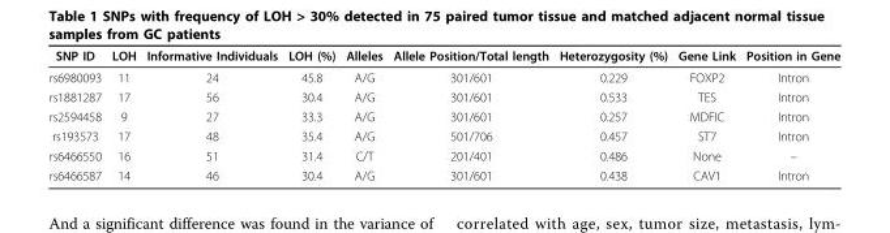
<table><thead><tr><td>SNP ID</td><td>LOH</td><td>Informative Individuals</td><td>LOH (%)</td><td>Alleles</td><td>Allele Position/Total length</td><td>Heterozygosity (%)</td><td>Gene Link</td><td>Position in Gene</td></tr></thead><tbody><tr><td>rs6980093</td><td>11</td><td>24</td><td>45.8</td><td>A/G</td><td>301/601</td><td>0.229</td><td>FOXP2</td><td>Intron</td></tr><tr><td>rs1881287</td><td>17</td><td>56</td><td>30.4</td><td>A/G</td><td>301/601</td><td>0.533</td><td>TES</td><td>Intron</td></tr><tr><td>rs2594458</td><td>9</td><td>27</td><td>33.3</td><td>A/G</td><td>301/601</td><td>0.257</td><td>MDFIC</td><td>Intron</td></tr><tr><td>rs193573</td><td>17</td><td>48</td><td>35.4</td><td>A/G</td><td>501/706</td><td>0.457</td><td>ST7</td><td>Intron</td></tr><tr><td>rs6466550</td><td>16</td><td>51</td><td>31.4</td><td>C/T</td><td>201/401</td><td>0.486</td><td>None</td><td>–</td></tr><tr><td>rs6466587</td><td>14</td><td>46</td><td>30.4</td><td>A/G</td><td>301/601</td><td>0.438</td><td>CAV1</td><td>Intron</td></tr></tbody></table>